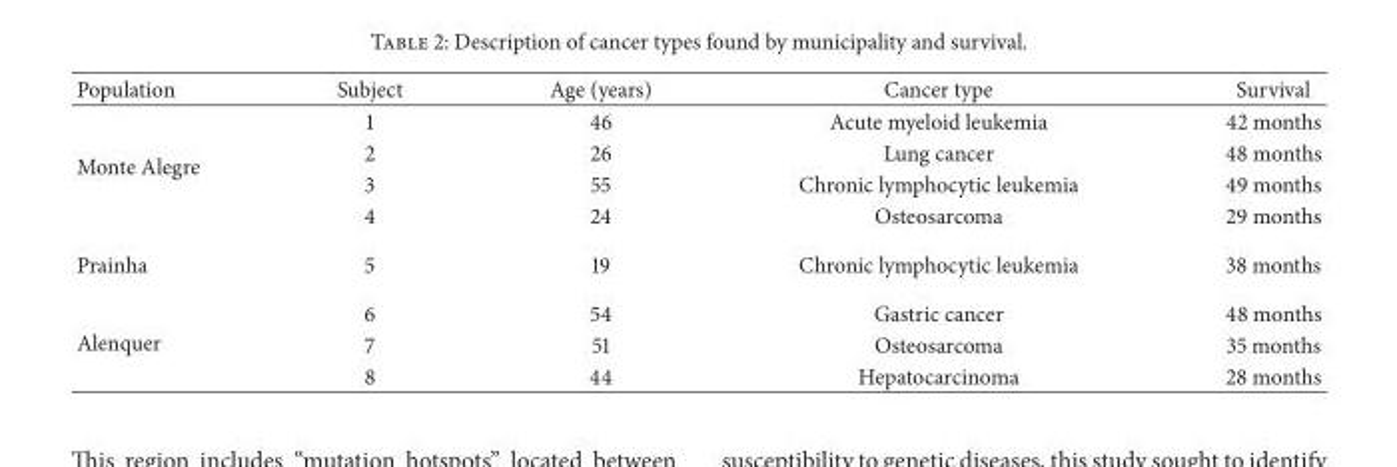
<table><thead><tr><td>Population</td><td>Subject</td><td>Age (years)</td><td>Cancer type</td><td>Survival</td></tr></thead><tbody><tr><td rowspan="4">Monte Alegre</td><td>1</td><td>46</td><td>Acute myeloid leukemia</td><td>42 months</td></tr><tr><td>2</td><td>26</td><td>Lung cancer</td><td>48 months</td></tr><tr><td>3</td><td>55</td><td>Chronic lymphocytic leukemia</td><td>49 months</td></tr><tr><td>4</td><td>24</td><td>Osteosarcoma</td><td>29 months</td></tr><tr><td>Prainha</td><td>5</td><td>19</td><td>Chronic lymphocytic leukemia</td><td>38 months</td></tr><tr><td rowspan="3">Alenquer</td><td>6</td><td>54</td><td>Gastric cancer</td><td>48 months</td></tr><tr><td>7</td><td>51</td><td>Osteosarcoma</td><td>35 months</td></tr><tr><td>8</td><td>44</td><td>Hepatocarcinoma</td><td>28 months</td></tr></tbody></table>